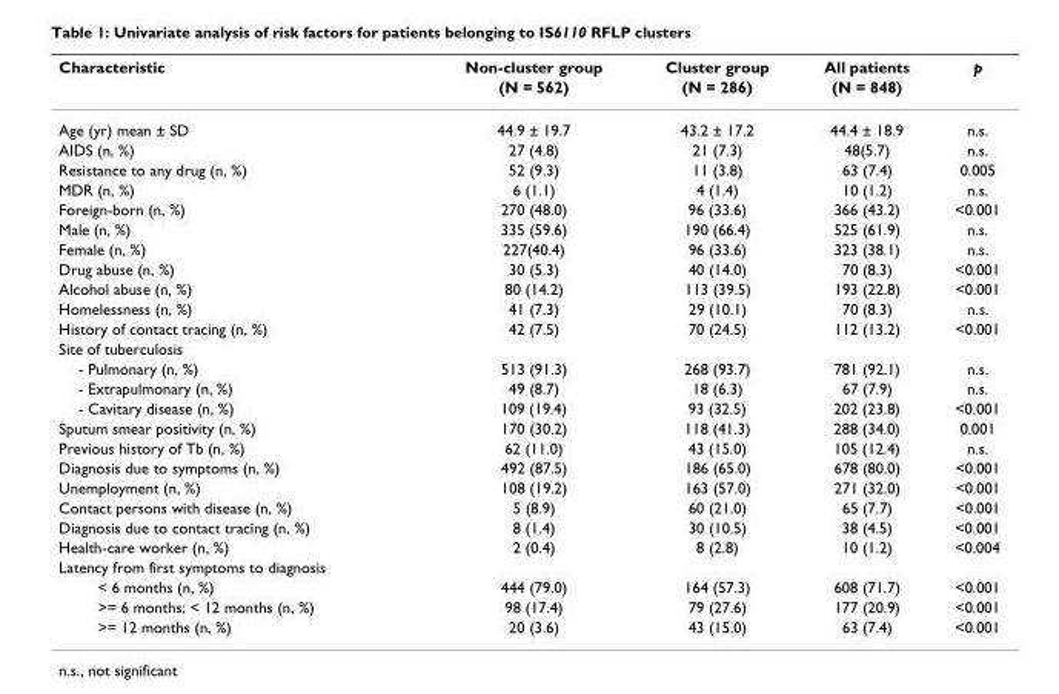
<table><thead><tr><td rowspan="2">Characteristic</td><td rowspan="2">Non-cluster group (N = 562)</td><td rowspan="2">Cluster group (N = 286)</td><td rowspan="2">All patients (N = 848)</td><td rowspan="2">p</td></tr><tr></tr></thead><tbody><tr><td>Age (yr) mean ± SD</td><td>44.9 ± 19.7</td><td>43.2 ± 17.2</td><td>44.4 ± 18.9</td><td>n.s.</td></tr><tr><td>AIDS (n, %)</td><td>27 (4.8)</td><td>21 (7.3)</td><td>48(5.7)</td><td>n.s.</td></tr><tr><td>Resistance to any drug (n, %)</td><td>52 (9.3)</td><td>11 (3.8)</td><td>63 (7.4)</td><td>0.005</td></tr><tr><td>MDR (n, %)</td><td>6 (1.1)</td><td>4 (1.4)</td><td>10 (1.2)</td><td>n.s.</td></tr><tr><td>Foreign-born (n, %)</td><td>270 (48.0)</td><td>96 (33.6)</td><td>366 (43.2)</td><td>&lt;0.001</td></tr><tr><td>Male (n, %)</td><td>335 (59.6)</td><td>190 (66.4)</td><td>525 (61.9)</td><td>n.s.</td></tr><tr><td>Female (n, %)</td><td>227(40.4)</td><td>96 (33.6)</td><td>323 (38.1)</td><td>n.s.</td></tr><tr><td>Drug abuse (n, %)</td><td>30 (5.3)</td><td>40 (14.0)</td><td>70 (8.3)</td><td>&lt;0.001</td></tr><tr><td>Alcohol abuse (n, %)</td><td>80 (14.2)</td><td>113 (39.5)</td><td>193 (22.8)</td><td>&lt;0.001</td></tr><tr><td>Homelessness (n, %)</td><td>41 (7.3)</td><td>29 (10.1)</td><td>70 (8.3)</td><td>n.s.</td></tr><tr><td>History of contact tracing (n, %)</td><td>42 (7.5)</td><td>70 (24.5)</td><td>112 (13.2)</td><td>&lt;0.001</td></tr><tr><td colspan="5">Site of tuberculosis</td></tr><tr><td>- Pulmonary (n, %)</td><td>513 (91.3)</td><td>268 (93.7)</td><td>781 (92.1)</td><td>n.s.</td></tr><tr><td>- Extrapulmonary (n, %)</td><td>49 (8.7)</td><td>18 (6.3)</td><td>67 (7.9)</td><td>n.s.</td></tr><tr><td>- Cavitary disease (n, %)</td><td>109 (19.4)</td><td>93 (32.5)</td><td>202 (23.8)</td><td>&lt;0.001</td></tr><tr><td>Sputum smear positivity (n, %)</td><td>170 (30.2)</td><td>118 (41.3)</td><td>288 (34.0)</td><td>0.001</td></tr><tr><td>Previous history of Tb (n, %)</td><td>62 (11.0)</td><td>43 (15.0)</td><td>105 (12.4)</td><td>n.s.</td></tr><tr><td>Diagnosis due to symptoms (n, %)</td><td>492 (87.5)</td><td>186 (65.0)</td><td>678 (80.0)</td><td>&lt;0.001</td></tr><tr><td>Unemployment (n, %)</td><td>108 (19.2)</td><td>163 (57.0)</td><td>271 (32.0)</td><td>&lt;0.001</td></tr><tr><td>Contact persons with disease (n, %)</td><td>5 (8.9)</td><td>60 (21.0)</td><td>65 (7.7)</td><td>&lt;0.001</td></tr><tr><td>Diagnosis due to contact tracing (n, %)</td><td>8 (1.4)</td><td>30 (10.5)</td><td>38 (4.5)</td><td>&lt;0.001</td></tr><tr><td>Health-care worker (n, %)</td><td>2 (0.4)</td><td>8 (2.8)</td><td>10 (1.2)</td><td>&lt;0.004</td></tr><tr><td colspan="5">Latency from first symptoms to diagnosis</td></tr><tr><td>&lt; 6 months (n, %)</td><td>444 (79.0)</td><td>164 (57.3)</td><td>608 (71.7)</td><td>&lt;0.001</td></tr><tr><td>&gt;= 6 months; &lt; 12 months (n, %)</td><td>98 (17.4)</td><td>79 (27.6)</td><td>177 (20.9)</td><td>&lt;0.001</td></tr><tr><td>&gt;= 12 months (n, %)</td><td>20 (3.6)</td><td>43 (15.0)</td><td>63 (7.4)</td><td>&lt;0.001</td></tr></tbody></table>